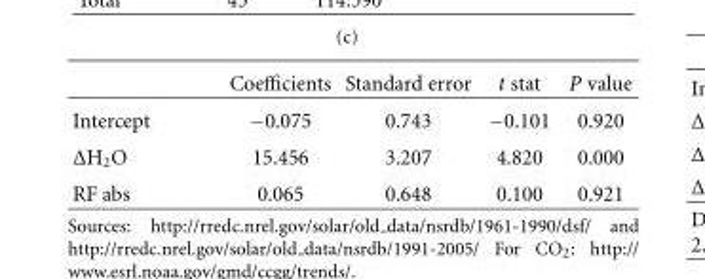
<table><thead><tr><td></td><td>Coefficients</td><td>Standard error</td><td>t stat</td><td>P value</td></tr></thead><tbody><tr><td>Intercept</td><td>−0.075</td><td>0.743</td><td>−0.101</td><td>0.920</td></tr><tr><td>ΔH<sub>2</sub>O</td><td>15.456</td><td>3.207</td><td>4.820</td><td>0.000</td></tr><tr><td>RF abs</td><td>0.065</td><td>0.648</td><td>0.100</td><td>0.921</td></tr></tbody></table>